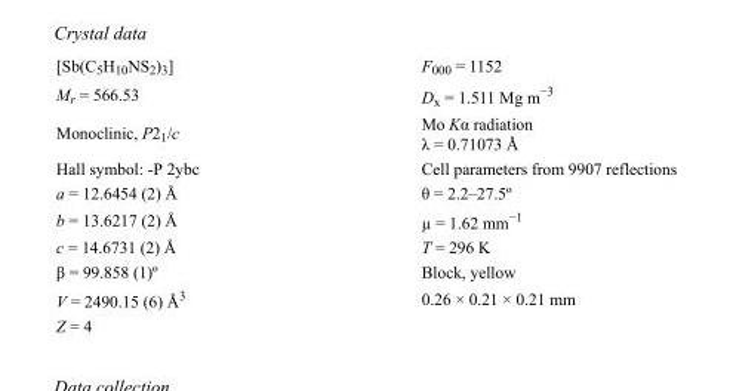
<table><tbody><tr><td>[Sb(C<sub>5</sub>H<sub>10</sub>NS<sub>2</sub>)<sub>3</sub>]</td><td>F000 = 1152</td></tr><tr><td>M<sub>r</sub> = 566.53</td><td>D<sub>x</sub> = 1.511 Mg m<sup>−3</sup></td></tr><tr><td>Monoclinic, P2<sub>1</sub>/c</td><td>Mo Kα radiation λ = 0.71073 Å</td></tr><tr><td>Hall symbol: -P 2ybc</td><td>Cell parameters from 9907 reflections</td></tr><tr><td>a = 12.6454 (2) Å</td><td>θ = 2.2–27.5º</td></tr><tr><td>b = 13.6217 (2) Å</td><td>µ = 1.62 mm<sup>−1</sup></td></tr><tr><td>c = 14.6731 (2) Å</td><td>T = 296 K</td></tr><tr><td>β = 99.858 (1)º</td><td>Block, yellow</td></tr><tr><td>V = 2490.15 (6) Å<sup>3</sup></td><td>0.26 × 0.21 × 0.21 mm</td></tr><tr><td>Z = 4</td><td></td></tr></tbody></table>